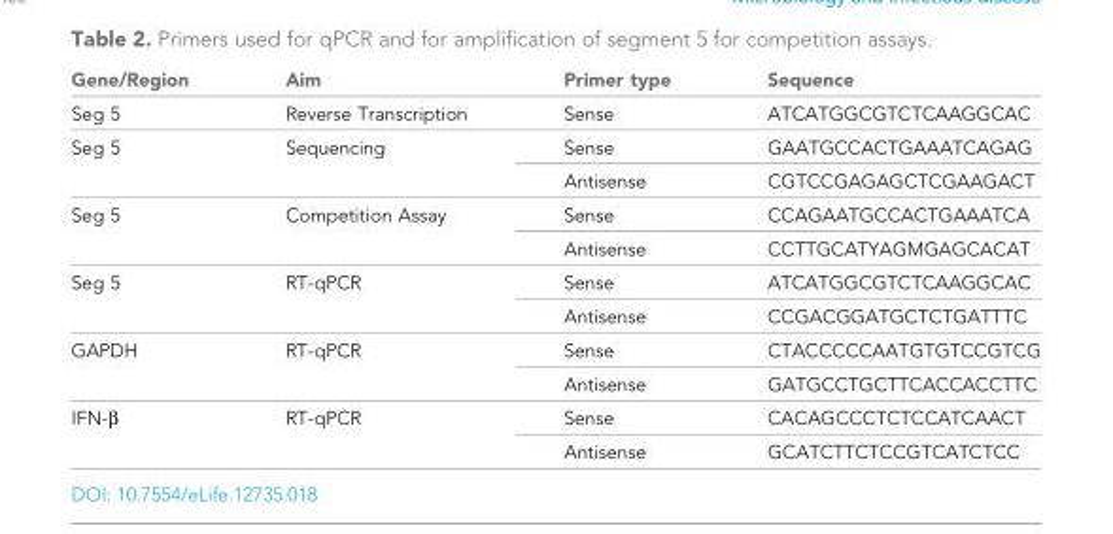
<table><thead><tr><td>Gene/Region</td><td>Aim</td><td>Primer type</td><td>Sequence</td></tr></thead><tbody><tr><td>Seg 5</td><td>Reverse Transcription</td><td>Sense</td><td>ATCATGGCGTCTCAAGGCAC</td></tr><tr><td rowspan="2">Seg 5</td><td rowspan="2">Sequencing</td><td>Sense</td><td>GAATGCCACTGAAATCAGAG</td></tr><tr><td>Antisense</td><td>CGTCCGAGAGCTCGAAGACT</td></tr><tr><td rowspan="2">Seg 5</td><td rowspan="2">Competition Assay</td><td>Sense</td><td>CCAGAATGCCACTGAAATCA</td></tr><tr><td>Antisense</td><td>CCTTGCATYAGMGAGCACAT</td></tr><tr><td rowspan="2">Seg 5</td><td rowspan="2">RT-qPCR</td><td>Sense</td><td>ATCATGGCGTCTCAAGGCAC</td></tr><tr><td>Antisense</td><td>CCGACGGATGCTCTGATTTC</td></tr><tr><td rowspan="2">GAPDH</td><td rowspan="2">RT-qPCR</td><td>Sense</td><td>CTACCCCCAATGTGTCCGTCG</td></tr><tr><td>Antisense</td><td>GATGCCTGCTTCACCACCTTC</td></tr><tr><td rowspan="2">IFN-β</td><td rowspan="2">RT-qPCR</td><td>Sense</td><td>CACAGCCCTCTCCATCAACT</td></tr><tr><td>Antisense</td><td>GCATCTTCTCCGTCATCTCC</td></tr></tbody></table>